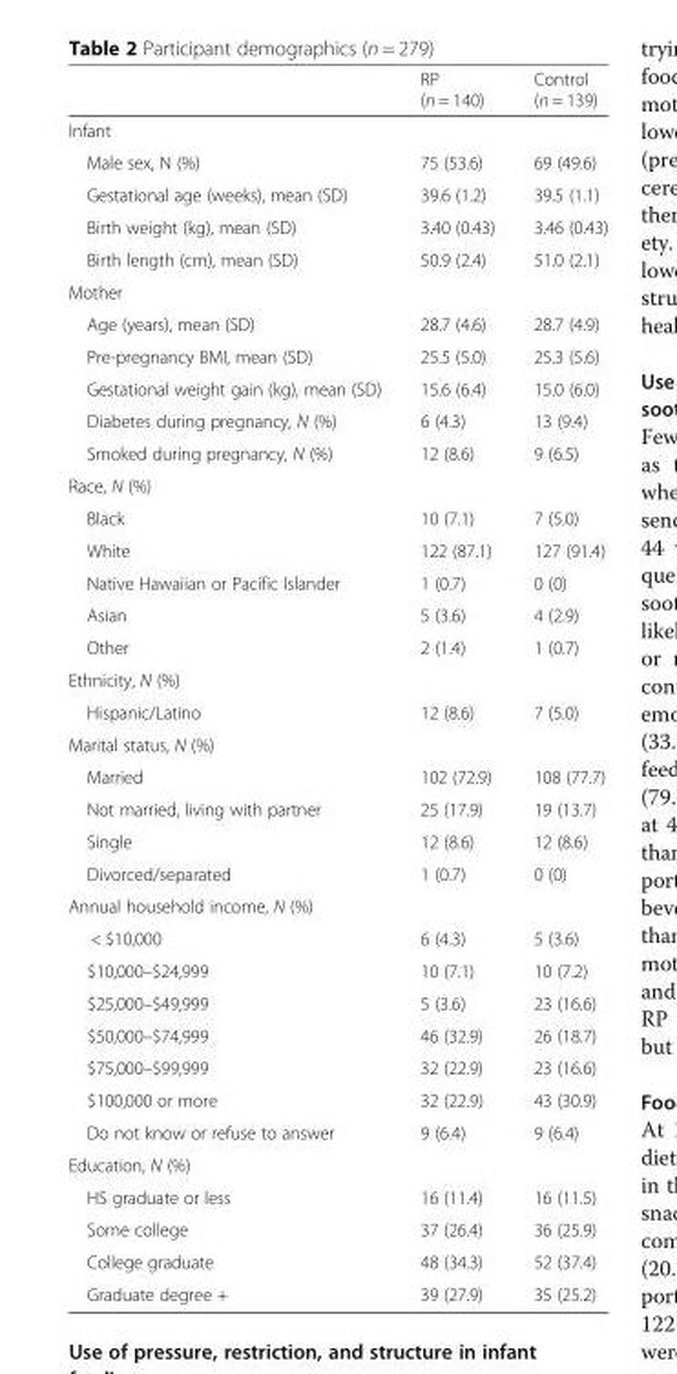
<table><thead><tr><td></td><td>RP (n = 140)</td><td>Control (n = 139)</td></tr></thead><tbody><tr><td colspan="3">Infant</td></tr><tr><td>Male sex, N (%)</td><td>75 (53.6)</td><td>69 (49.6)</td></tr><tr><td>Gestational age (weeks), mean (SD)</td><td>39.6 (1.2)</td><td>39.5 (1.1)</td></tr><tr><td>Birth weight (kg), mean (SD)</td><td>3.40 (0.43)</td><td>3.46 (0.43)</td></tr><tr><td>Birth length (cm), mean (SD)</td><td>50.9 (2.4)</td><td>51.0 (2.1)</td></tr><tr><td colspan="3">Mother</td></tr><tr><td>Age (years), mean (SD)</td><td>28.7 (4.6)</td><td>28.7 (4.9)</td></tr><tr><td>Pre-pregnancy BMI, mean (SD)</td><td>25.5 (5.0)</td><td>25.3 (5.6)</td></tr><tr><td>Gestational weight gain (kg), mean (SD)</td><td>15.6 (6.4)</td><td>15.0 (6.0)</td></tr><tr><td>Diabetes during pregnancy, N (%)</td><td>6 (4.3)</td><td>13 (9.4)</td></tr><tr><td>Smoked during pregnancy, N (%)</td><td>12 (8.6)</td><td>9 (6.5)</td></tr><tr><td colspan="3">Race, N (%)</td></tr><tr><td>Black</td><td>10 (7.1)</td><td>7 (5.0)</td></tr><tr><td>White</td><td>122 (87.1)</td><td>127 (91.4)</td></tr><tr><td>Native Hawaiian or Pacific Islander</td><td>1 (0.7)</td><td>0 (0)</td></tr><tr><td>Asian</td><td>5 (3.6)</td><td>4 (2.9)</td></tr><tr><td>Other</td><td>2 (1.4)</td><td>1 (0.7)</td></tr><tr><td colspan="3">Ethnicity, N (%)</td></tr><tr><td>Hispanic/Latino</td><td>12 (8.6)</td><td>7 (5.0)</td></tr><tr><td colspan="3">Marital status, N (%)</td></tr><tr><td>Married</td><td>102 (72.9)</td><td>108 (77.7)</td></tr><tr><td>Not married, living with partner</td><td>25 (17.9)</td><td>19 (13.7)</td></tr><tr><td>Single</td><td>12 (8.6)</td><td>12 (8.6)</td></tr><tr><td>Divorced/separated</td><td>1 (0.7)</td><td>0 (0)</td></tr><tr><td colspan="3">Annual household income, N (%)</td></tr><tr><td>&lt; $10,000</td><td>6 (4.3)</td><td>5 (3.6)</td></tr><tr><td>$10,000–$24,999</td><td>10 (7.1)</td><td>10 (7.2)</td></tr><tr><td>$25,000–$49,999</td><td>5 (3.6)</td><td>23 (16.6)</td></tr><tr><td>$50,000–$74,999</td><td>46 (32.9)</td><td>26 (18.7)</td></tr><tr><td>$75,000–$99,999</td><td>32 (22.9)</td><td>23 (16.6)</td></tr><tr><td>$100,000 or more</td><td>32 (22.9)</td><td>43 (30.9)</td></tr><tr><td>Do not know or refuse to answer</td><td>9 (6.4)</td><td>9 (6.4)</td></tr><tr><td colspan="3">Education, N (%)</td></tr><tr><td>HS graduate or less</td><td>16 (11.4)</td><td>16 (11.5)</td></tr><tr><td>Some college</td><td>37 (26.4)</td><td>36 (25.9)</td></tr><tr><td>College graduate</td><td>48 (34.3)</td><td>52 (37.4)</td></tr><tr><td>Graduate degree +</td><td>39 (27.9)</td><td>35 (25.2)</td></tr></tbody></table>